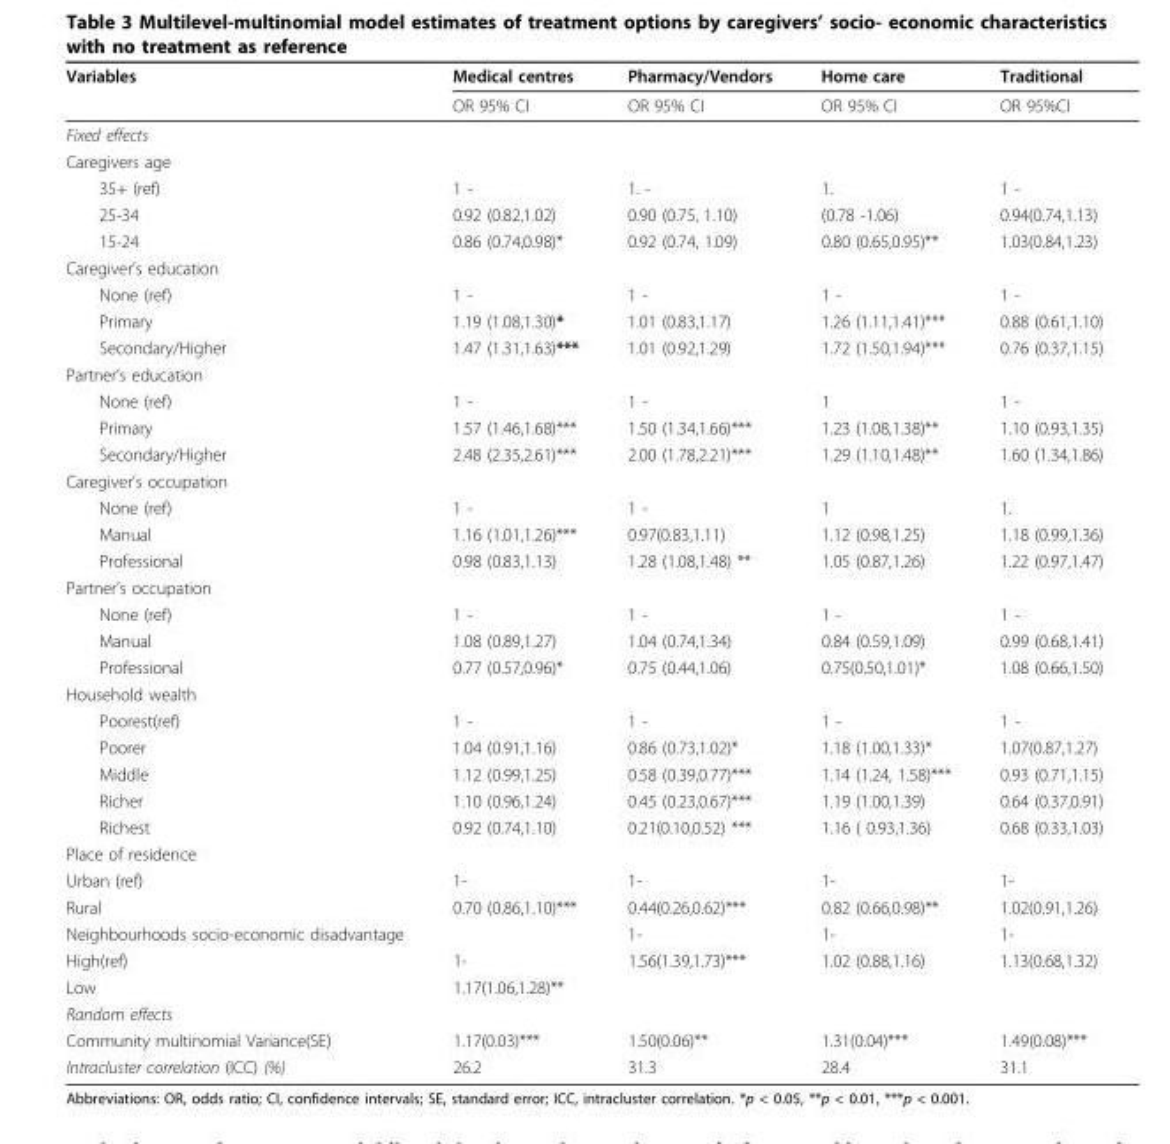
<table><thead><tr><td rowspan="2">Variables</td><td rowspan="2">Medical centres OR 95% CI</td><td rowspan="2">Pharmacy/Vendors OR 95% CI</td><td rowspan="2">Home care OR 95% CI</td><td rowspan="2">Traditional OR 95%CI</td></tr><tr></tr></thead><tbody><tr><td colspan="5">Fixed effects</td></tr><tr><td colspan="5">Caregivers age</td></tr><tr><td>35+ (ref)</td><td>1 -</td><td>1. -</td><td>1.</td><td>1 -</td></tr><tr><td>25-34</td><td>0.92 (0.82,1.02)</td><td>0.90 (0.75, 1.10)</td><td>(0.78 -1.06)</td><td>0.94(0.74,1.13)</td></tr><tr><td>15-24</td><td>0.86 (0.74,0.98)*</td><td>0.92 (0.74, 1.09)</td><td>0.80 (0.65,0.95)**</td><td>1.03(0.84,1.23)</td></tr><tr><td colspan="5">Caregiver’s education</td></tr><tr><td>None (ref)</td><td>1 -</td><td>1 -</td><td>1 -</td><td>1 -</td></tr><tr><td>Primary</td><td>1.19 (1.08,1.30)*</td><td>1.01 (0.83,1.17)</td><td>1.26 (1.11,1.41)***</td><td>0.88 (0.61,1.10)</td></tr><tr><td>Secondary/Higher</td><td>1.47 (1.31,1.63)***</td><td>1.01 (0.92,1.29)</td><td>1.72 (1.50,1.94)***</td><td>0.76 (0.37,1.15)</td></tr><tr><td colspan="5">Partner’s education</td></tr><tr><td>None (ref)</td><td>1 -</td><td>1 -</td><td>1</td><td>1 -</td></tr><tr><td>Primary</td><td>1.57 (1.46,1.68)***</td><td>1.50 (1.34,1.66)***</td><td>1.23 (1.08,1.38)**</td><td>1.10 (0.93,1.35)</td></tr><tr><td>Secondary/Higher</td><td>2.48 (2.35,2.61)***</td><td>2.00 (1.78,2.21)***</td><td>1.29 (1.10,1.48)**</td><td>1.60 (1.34,1.86)</td></tr><tr><td colspan="5">Caregiver’s occupation</td></tr><tr><td>None (ref)</td><td>1 -</td><td>1 -</td><td>1</td><td>1.</td></tr><tr><td>Manual</td><td>1.16 (1.01,1.26)***</td><td>0.97(0.83,1.11)</td><td>1.12 (0.98,1.25)</td><td>1.18 (0.99,1.36)</td></tr><tr><td>Professional</td><td>0.98 (0.83,1.13)</td><td>1.28 (1.08,1.48) **</td><td>1.05 (0.87,1.26)</td><td>1.22 (0.97,1.47)</td></tr><tr><td colspan="5">Partner’s occupation</td></tr><tr><td>None (ref)</td><td>1 -</td><td>1 -</td><td>1 -</td><td>1 -</td></tr><tr><td>Manual</td><td>1.08 (0.89,1.27)</td><td>1.04 (0.74,1.34)</td><td>0.84 (0.59,1.09)</td><td>0.99 (0.68,1.41)</td></tr><tr><td>Professional</td><td>0.77 (0.57,0.96)*</td><td>0.75 (0.44,1.06)</td><td>0.75(0.50,1.01)*</td><td>1.08 (0.66,1.50)</td></tr><tr><td colspan="5">Household wealth</td></tr><tr><td>Poorest(ref)</td><td>1 -</td><td>1 -</td><td>1 -</td><td>1 -</td></tr><tr><td>Poorer</td><td>1.04 (0.91,1.16)</td><td>0.86 (0.73,1.02)*</td><td>1.18 (1.00,1.33)*</td><td>1.07(0.87,1.27)</td></tr><tr><td>Middle</td><td>1.12 (0.99,1.25)</td><td>0.58 (0.39,0.77)***</td><td>1.14 (1.24, 1.58)***</td><td>0.93 (0.71,1.15)</td></tr><tr><td>Richer</td><td>1.10 (0.96,1.24)</td><td>0.45 (0.23,0.67)***</td><td>1.19 (1.00,1.39)</td><td>0.64 (0.37,0.91)</td></tr><tr><td>Richest</td><td>0.92 (0.74,1.10)</td><td>0.21(0.10,0.52) ***</td><td>1.16 ( 0.93,1.36)</td><td>0.68 (0.33,1.03)</td></tr><tr><td colspan="5">Place of residence</td></tr><tr><td>Urban (ref)</td><td>1-</td><td>1-</td><td>1-</td><td>1-</td></tr><tr><td>Rural</td><td>0.70 (0.86,1.10)***</td><td>0.44(0.26,0.62)***</td><td>0.82 (0.66,0.98)**</td><td>1.02(0.91,1.26)</td></tr><tr><td>Neighbourhoods socio-economic disadvantage</td><td></td><td>1-</td><td>1-</td><td>1-</td></tr><tr><td>High(ref)</td><td>1-</td><td>1.56(1.39,1.73)***</td><td>1.02 (0.88,1.16)</td><td>1.13(0.68,1.32)</td></tr><tr><td>Low</td><td>1.17(1.06,1.28)**</td><td></td><td></td><td></td></tr><tr><td colspan="5">Random effects</td></tr><tr><td>Community multinomial Variance(SE)</td><td>1.17(0.03)***</td><td>1.50(0.06)**</td><td>1.31(0.04)***</td><td>1.49(0.08)***</td></tr><tr><td>Intracluster correlation (ICC) (%)</td><td>26.2</td><td>31.3</td><td>28.4</td><td>31.1</td></tr></tbody></table>